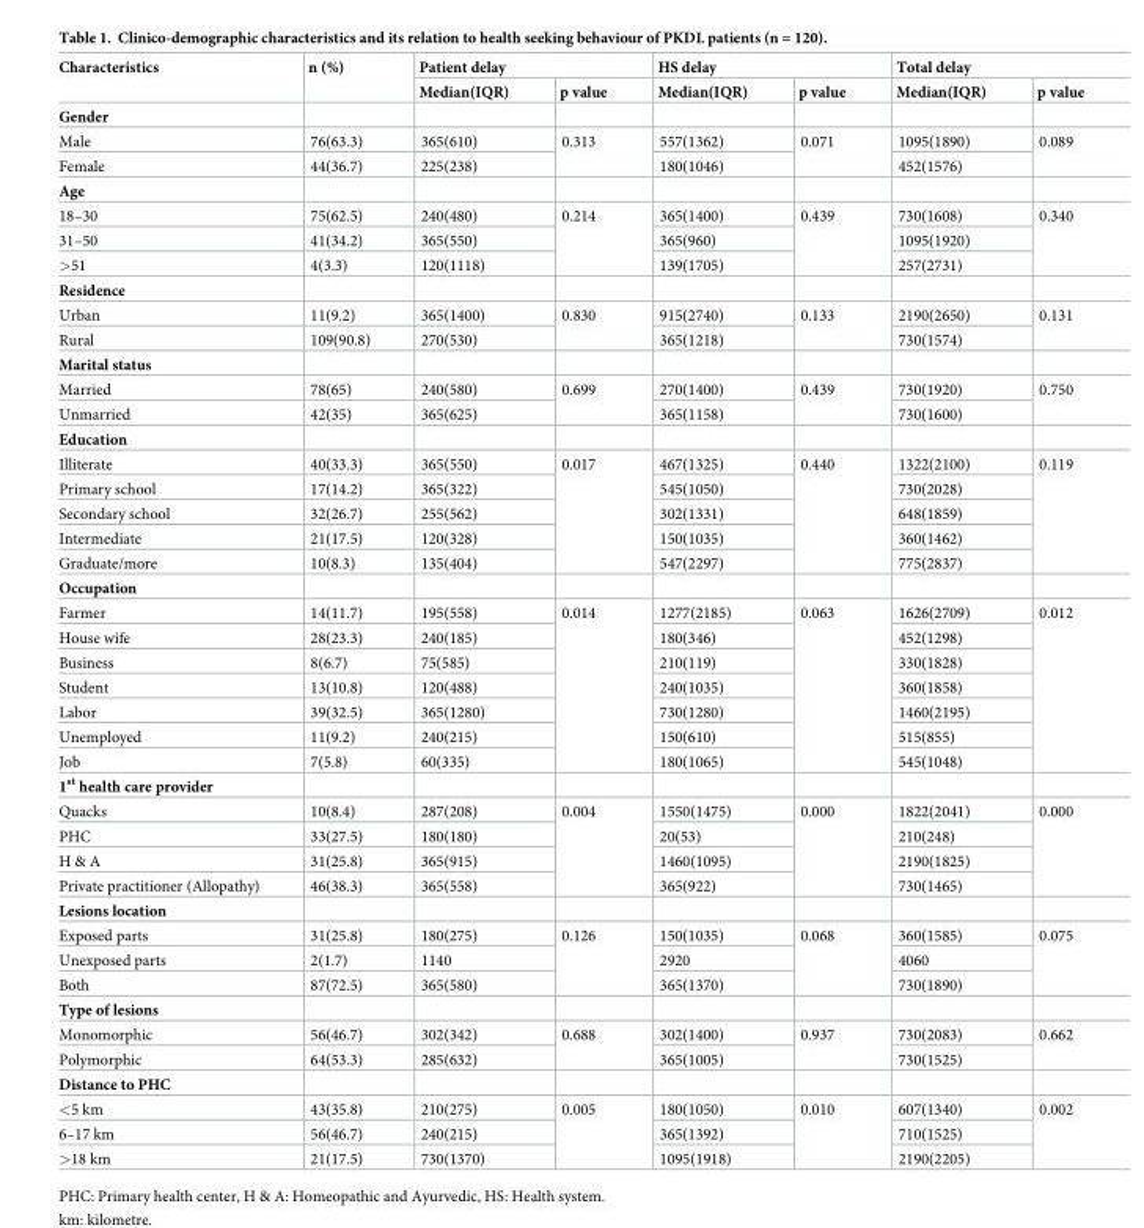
<table><thead><tr><td rowspan="2">Characteristics</td><td rowspan="2">n (%)</td><td colspan="2">Patient delay</td><td colspan="2">HS delay</td><td colspan="2">Total delay</td></tr><tr><td>Median(IQR)</td><td>p value</td><td>Median(IQR)</td><td>p value</td><td>Median(IQR)</td><td>p value</td></tr></thead><tbody><tr><td colspan="8">Gender</td></tr><tr><td>Male</td><td>76(63.3)</td><td>365(610)</td><td rowspan="2">0.313</td><td>557(1362)</td><td rowspan="2">0.071</td><td>1095(1890)</td><td rowspan="2">0.089</td></tr><tr><td>Female</td><td>44(36.7)</td><td>225(238)</td><td>180(1046)</td><td>452(1576)</td></tr><tr><td colspan="8">Age</td></tr><tr><td>18–30</td><td>75(62.5)</td><td>240(480)</td><td rowspan="3">0.214</td><td>365(1400)</td><td rowspan="3">0.439</td><td>730(1608)</td><td rowspan="3">0.340</td></tr><tr><td>31–50</td><td>41(34.2)</td><td>365(550)</td><td>365(960)</td><td>1095(1920)</td></tr><tr><td>&gt;51</td><td>4(3.3)</td><td>120(1118)</td><td>139(1705)</td><td>257(2731)</td></tr><tr><td colspan="8">Residence</td></tr><tr><td>Urban</td><td>11(9.2)</td><td>365(1400)</td><td rowspan="2">0.830</td><td>915(2740)</td><td rowspan="2">0.133</td><td>2190(2650)</td><td rowspan="2">0.131</td></tr><tr><td>Rural</td><td>109(90.8)</td><td>270(530)</td><td>365(1218)</td><td>730(1574)</td></tr><tr><td colspan="8">Marital status</td></tr><tr><td>Married</td><td>78(65)</td><td>240(580)</td><td rowspan="2">0.699</td><td>270(1400)</td><td rowspan="2">0.439</td><td>730(1920)</td><td rowspan="2">0.750</td></tr><tr><td>Unmarried</td><td>42(35)</td><td>365(625)</td><td>365(1158)</td><td>730(1600)</td></tr><tr><td colspan="8">Education</td></tr><tr><td>Illiterate</td><td>40(33.3)</td><td>365(550)</td><td rowspan="5">0.017</td><td>467(1325)</td><td rowspan="5">0.440</td><td>1322(2100)</td><td rowspan="5">0.119</td></tr><tr><td>Primary school</td><td>17(14.2)</td><td>365(322)</td><td>545(1050)</td><td>730(2028)</td></tr><tr><td>Secondary school</td><td>32(26.7)</td><td>255(562)</td><td>302(1331)</td><td>648(1859)</td></tr><tr><td>Intermediate</td><td>21(17.5)</td><td>120(328)</td><td>150(1035)</td><td>360(1462)</td></tr><tr><td>Graduate/more</td><td>10(8.3)</td><td>135(404)</td><td>547(2297)</td><td>775(2837)</td></tr><tr><td colspan="8">Occupation</td></tr><tr><td>Farmer</td><td>14(11.7)</td><td>195(558)</td><td rowspan="7">0.014</td><td>1277(2185)</td><td rowspan="7">0.063</td><td>1626(2709)</td><td rowspan="7">0.012</td></tr><tr><td>House wife</td><td>28(23.3)</td><td>240(185)</td><td>180(346)</td><td>452(1298)</td></tr><tr><td>Business</td><td>8(6.7)</td><td>75(585)</td><td>210(119)</td><td>330(1828)</td></tr><tr><td>Student</td><td>13(10.8)</td><td>120(488)</td><td>240(1035)</td><td>360(1858)</td></tr><tr><td>Labor</td><td>39(32.5)</td><td>365(1280)</td><td>730(1280)</td><td>1460(2195)</td></tr><tr><td>Unemployed</td><td>11(9.2)</td><td>240(215)</td><td>150(610)</td><td>515(855)</td></tr><tr><td>Job</td><td>7(5.8)</td><td>60(335)</td><td>180(1065)</td><td>545(1048)</td></tr><tr><td colspan="8">1<sup>st</sup> health care provider</td></tr><tr><td>Quacks</td><td>10(8.4)</td><td>287(208)</td><td rowspan="4">0.004</td><td>1550(1475)</td><td rowspan="4">0.000</td><td>1822(2041)</td><td rowspan="4">0.000</td></tr><tr><td>PHC</td><td>33(27.5)</td><td>180(180)</td><td>20(53)</td><td>210(248)</td></tr><tr><td>H &amp; A</td><td>31(25.8)</td><td>365(915)</td><td>1460(1095)</td><td>2190(1825)</td></tr><tr><td>Private practitioner (Allopathy)</td><td>46(38.3)</td><td>365(558)</td><td>365(922)</td><td>730(1465)</td></tr><tr><td colspan="8">Lesions location</td></tr><tr><td>Exposed parts</td><td>31(25.8)</td><td>180(275)</td><td rowspan="3">0.126</td><td>150(1035)</td><td rowspan="3">0.068</td><td>360(1585)</td><td rowspan="3">0.075</td></tr><tr><td>Unexposed parts</td><td>2(1.7)</td><td>1140</td><td>2920</td><td>4060</td></tr><tr><td>Both</td><td>87(72.5)</td><td>365(580)</td><td>365(1370)</td><td>730(1890)</td></tr><tr><td colspan="8">Type of lesions</td></tr><tr><td>Monomorphic</td><td>56(46.7)</td><td>302(342)</td><td rowspan="2">0.688</td><td>302(1400)</td><td rowspan="2">0.937</td><td>730(2083)</td><td rowspan="2">0.662</td></tr><tr><td>Polymorphic</td><td>64(53.3)</td><td>285(632)</td><td>365(1005)</td><td>730(1525)</td></tr><tr><td colspan="8">Distance to PHC</td></tr><tr><td>&lt;5 km</td><td>43(35.8)</td><td>210(275)</td><td rowspan="3">0.005</td><td>180(1050)</td><td rowspan="3">0.010</td><td>607(1340)</td><td rowspan="3">0.002</td></tr><tr><td>6–17 km</td><td>56(46.7)</td><td>240(215)</td><td>365(1392)</td><td>710(1525)</td></tr><tr><td>&gt;18 km</td><td>21(17.5)</td><td>730(1370)</td><td>1095(1918)</td><td>2190(2205)</td></tr></tbody></table>